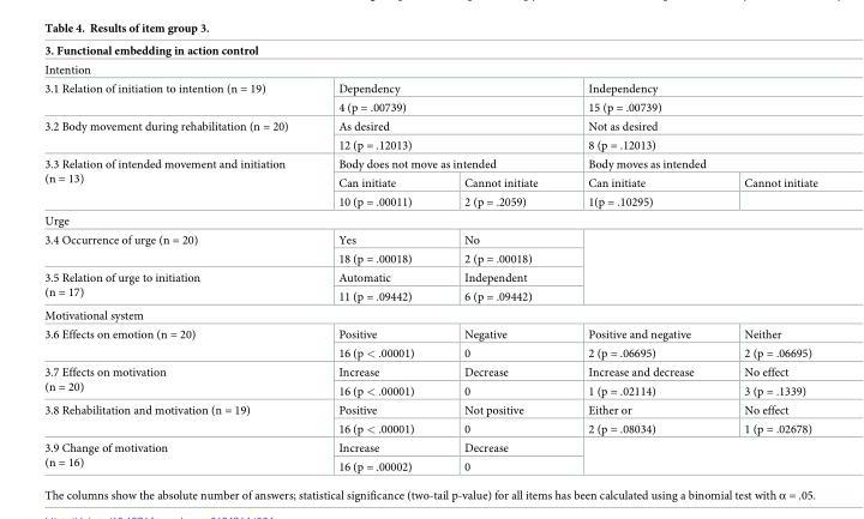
<table><thead><tr><td colspan="5">3. Functional embedding in action control</td></tr></thead><tbody><tr><td colspan="5">Intention</td></tr><tr><td rowspan="2">3.1 Relation of initiation to intention (n = 19)</td><td colspan="2">Dependency</td><td colspan="2">Independency</td></tr><tr><td colspan="2">4 (p = .00739)</td><td colspan="2">15 (p = .00739)</td></tr><tr><td rowspan="2">3.2 Body movement during rehabilitation (n = 20)</td><td colspan="2">As desired</td><td colspan="2">Not as desired</td></tr><tr><td colspan="2">12 (p = .12013)</td><td colspan="2">8 (p = .12013)</td></tr><tr><td rowspan="3">3.3 Relation of intended movement and initiation (n = 13)</td><td colspan="2">Body does not move as intended</td><td colspan="2">Body moves as intended</td></tr><tr><td>Can initiate</td><td>Cannot initiate</td><td>Can initiate</td><td>Cannot initiate</td></tr><tr><td>10 (p = .00011)</td><td>2 (p = .2059)</td><td>1(p = .10295)</td><td></td></tr><tr><td colspan="5">Urge</td></tr><tr><td rowspan="2">3.4 Occurrence of urge (n = 20)</td><td>Yes</td><td>No</td><td rowspan="4" colspan="2"></td></tr><tr><td>18 (p = .00018)</td><td>2 (p = .00018)</td></tr><tr><td rowspan="2">3.5 Relation of urge to initiation (n = 17)</td><td>Automatic</td><td>Independent</td></tr><tr><td>11 (p = .09442)</td><td>6 (p = .09442)</td></tr><tr><td colspan="5">Motivational system</td></tr><tr><td rowspan="2">3.6 Effects on emotion (n = 20)</td><td>Positive</td><td>Negative</td><td>Positive and negative</td><td>Neither</td></tr><tr><td>16 (p &lt; .00001)</td><td>0</td><td>2 (p = .06695)</td><td>2 (p = .06695)</td></tr><tr><td rowspan="2">3.7 Effects on motivation (n = 20)</td><td>Increase</td><td>Decrease</td><td>Increase and decrease</td><td>No effect</td></tr><tr><td>16 (p &lt; .00001)</td><td>0</td><td>1 (p = .02114)</td><td>3 (p = .1339)</td></tr><tr><td rowspan="2">3.8 Rehabilitation and motivation (n = 19)</td><td>Positive</td><td>Not positive</td><td>Either or</td><td>No effect</td></tr><tr><td>16 (p &lt; .00001)</td><td>0</td><td>2 (p = .08034)</td><td>1 (p = .02678)</td></tr><tr><td rowspan="2">3.9 Change of motivation (n = 16)</td><td>Increase</td><td>Decrease</td><td rowspan="2" colspan="2"></td></tr><tr><td>16 (p = .00002)</td><td>0</td></tr></tbody></table>